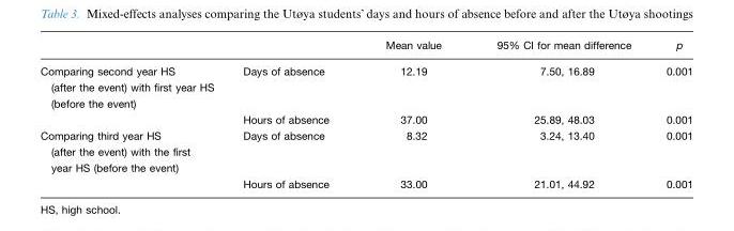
<table><thead><tr><td></td><td></td><td>Mean value</td><td>95% CI for mean difference</td><td>p</td></tr></thead><tbody><tr><td rowspan="2">Comparing second year HS (after the event) with first year HS (before the event)</td><td>Days of absence</td><td>12.19</td><td>7.50, 16.89</td><td>0.001</td></tr><tr><td>Hours of absence</td><td>37.00</td><td>25.89, 48.03</td><td>0.001</td></tr><tr><td rowspan="2">Comparing third year HS (after the event) with the first year HS (before the event)</td><td>Days of absence</td><td>8.32</td><td>3.24, 13.40</td><td>0.001</td></tr><tr><td>Hours of absence</td><td>33.00</td><td>21.01, 44.92</td><td>0.001</td></tr></tbody></table>